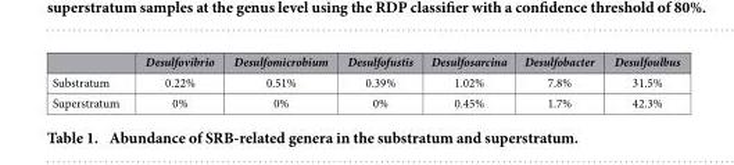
<table><thead><tr><td></td><td>Desulfovibrio</td><td>Desulfomicrobium</td><td>Desulfofustis</td><td>Desulfosarcina</td><td>Desulfobacter</td><td>Desulfoulbus</td></tr></thead><tbody><tr><td>Substratum</td><td>0.22%</td><td>0.51%</td><td>0.39%</td><td>1.02%</td><td>7.8%</td><td>31.5%</td></tr><tr><td>Superstratum</td><td>0%</td><td>0%</td><td>0%</td><td>0.45%</td><td>1.7%</td><td>42.3%</td></tr></tbody></table>